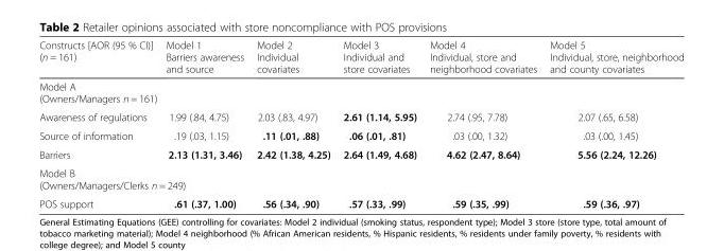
<table><thead><tr><td>Constructs [AOR (95 % CI)] (n = 161)</td><td>Model 1 Barriers awareness and source</td><td>Model 2 Individual covariates</td><td>Model 3 Individual and store covariates</td><td>Model 4 Individual, store and neighborhood covariates</td><td>Model 5 Individual, store, neighborhood and county covariates</td></tr></thead><tbody><tr><td colspan="6">Model A (Owners/Managers n = 161)</td></tr><tr><td>Awareness of regulations</td><td>1.99 (.84, 4.75)</td><td>2.03 (.83, 4.97)</td><td>2.61 (1.14, 5.95)</td><td>2.74 (.95, 7.78)</td><td>2.07 (.65, 6.58)</td></tr><tr><td>Source of information</td><td>.19 (.03, 1.15)</td><td>.11 (.01, .88)</td><td>.06 (.01, .81)</td><td>.03 (.00, 1.32)</td><td>.03 (.00, 1.45)</td></tr><tr><td>Barriers</td><td>2.13 (1.31, 3.46)</td><td>2.42 (1.38, 4.25)</td><td>2.64 (1.49, 4.68)</td><td>4.62 (2.47, 8.64)</td><td>5.56 (2.24, 12.26)</td></tr><tr><td colspan="6">Model B (Owners/Managers/Clerks n = 249)</td></tr><tr><td>POS support</td><td>.61 (.37, 1.00)</td><td>.56 (.34, .90)</td><td>.57 (.33, .99)</td><td>.59 (.35, .99)</td><td>.59 (.36, .97)</td></tr></tbody></table>